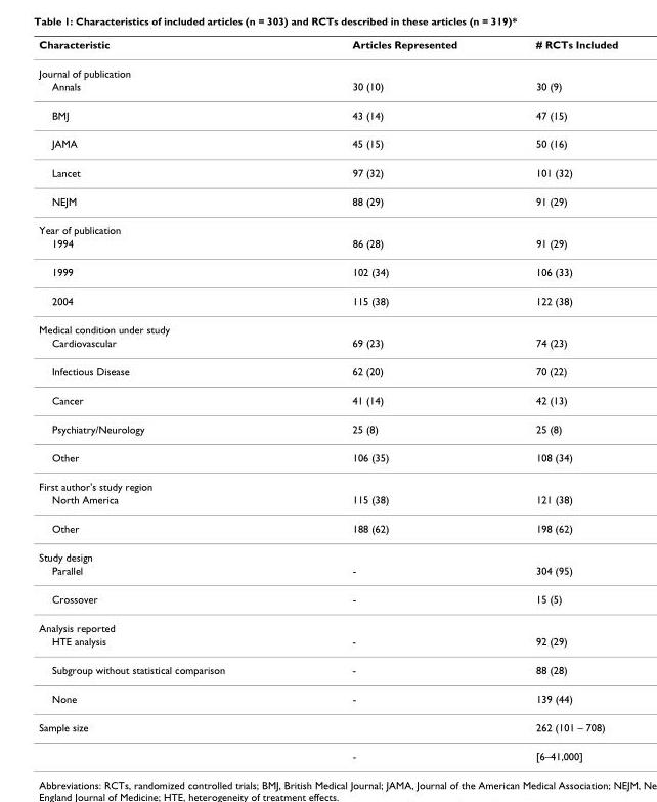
<table><thead><tr><td>Characteristic</td><td>Articles Represented</td><td># RCTs Included</td></tr></thead><tbody><tr><td colspan="3">Journal of publication</td></tr><tr><td>Annals</td><td>30 (10)</td><td>30 (9)</td></tr><tr><td>BMJ</td><td>43 (14)</td><td>47 (15)</td></tr><tr><td>JAMA</td><td>45 (15)</td><td>50 (16)</td></tr><tr><td>Lancet</td><td>97 (32)</td><td>101 (32)</td></tr><tr><td>NEJM</td><td>88 (29)</td><td>91 (29)</td></tr><tr><td colspan="3">Year of publication</td></tr><tr><td>1994</td><td>86 (28)</td><td>91 (29)</td></tr><tr><td>1999</td><td>102 (34)</td><td>106 (33)</td></tr><tr><td>2004</td><td>115 (38)</td><td>122 (38)</td></tr><tr><td colspan="3">Medical condition under study</td></tr><tr><td>Cardiovascular</td><td>69 (23)</td><td>74 (23)</td></tr><tr><td>Infectious Disease</td><td>62 (20)</td><td>70 (22)</td></tr><tr><td>Cancer</td><td>41 (14)</td><td>42 (13)</td></tr><tr><td>Psychiatry/Neurology</td><td>25 (8)</td><td>25 (8)</td></tr><tr><td>Other</td><td>106 (35)</td><td>108 (34)</td></tr><tr><td colspan="3">First author&#x27;s study region</td></tr><tr><td>North America</td><td>115 (38)</td><td>121 (38)</td></tr><tr><td>Other</td><td>188 (62)</td><td>198 (62)</td></tr><tr><td colspan="3">Study design</td></tr><tr><td>Parallel</td><td>-</td><td>304 (95)</td></tr><tr><td>Crossover</td><td>-</td><td>15 (5)</td></tr><tr><td colspan="3">Analysis reported</td></tr><tr><td>HTE analysis</td><td>-</td><td>92 (29)</td></tr><tr><td>Subgroup without statistical comparison</td><td>-</td><td>88 (28)</td></tr><tr><td>None</td><td>-</td><td>139 (44)</td></tr><tr><td rowspan="2">Sample size</td><td></td><td>262 (101 – 708)</td></tr><tr><td>-</td><td>[6–41,000]</td></tr></tbody></table>